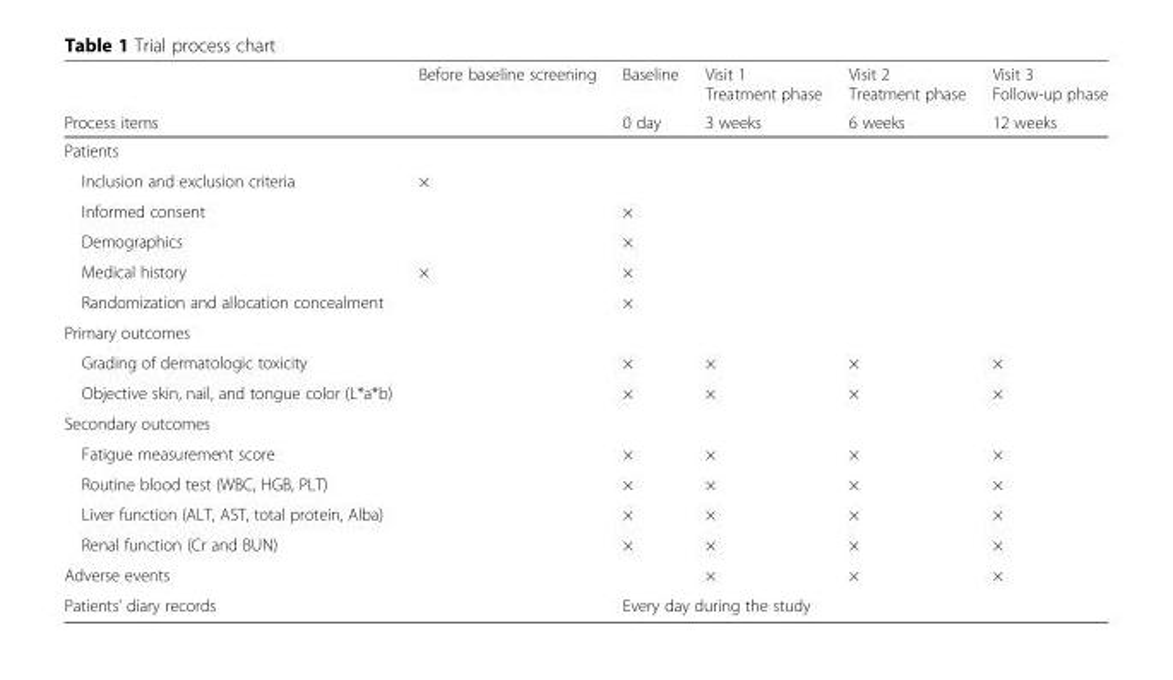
<table><thead><tr><td rowspan="2">Process items</td><td rowspan="2">Before baseline screening</td><td rowspan="2">Baseline 0 day</td><td rowspan="2">Visit 1 Treatment phase 3 weeks</td><td rowspan="2">Visit 2 Treatment phase 6 weeks</td><td rowspan="2">Visit 3 Follow-up phase 12 weeks</td></tr><tr></tr></thead><tbody><tr><td colspan="6">Patients</td></tr><tr><td>Inclusion and exclusion criteria</td><td>×</td><td></td><td></td><td></td><td></td></tr><tr><td>Informed consent</td><td></td><td>×</td><td></td><td></td><td></td></tr><tr><td>Demographics</td><td></td><td>×</td><td></td><td></td><td></td></tr><tr><td>Medical history</td><td>×</td><td>×</td><td></td><td></td><td></td></tr><tr><td>Randomization and allocation concealment</td><td></td><td>×</td><td></td><td></td><td></td></tr><tr><td colspan="6">Primary outcomes</td></tr><tr><td>Grading of dermatologic toxicity</td><td></td><td>×</td><td>×</td><td>×</td><td>×</td></tr><tr><td>Objective skin, nail, and tongue color (L*a*b)</td><td></td><td>×</td><td>×</td><td>×</td><td>×</td></tr><tr><td colspan="6">Secondary outcomes</td></tr><tr><td>Fatigue measurement score</td><td></td><td>×</td><td>×</td><td>×</td><td>×</td></tr><tr><td>Routine blood test (WBC, HGB, PLT)</td><td></td><td>×</td><td>×</td><td>×</td><td>×</td></tr><tr><td>Liver function (ALT, AST, total protein, Alba)</td><td></td><td>×</td><td>×</td><td>×</td><td>×</td></tr><tr><td>Renal function (Cr and BUN)</td><td></td><td>×</td><td>×</td><td>×</td><td>×</td></tr><tr><td>Adverse events</td><td></td><td></td><td>×</td><td>×</td><td>×</td></tr><tr><td>Patients’ diary records</td><td></td><td colspan="4">Every day during the study</td></tr></tbody></table>